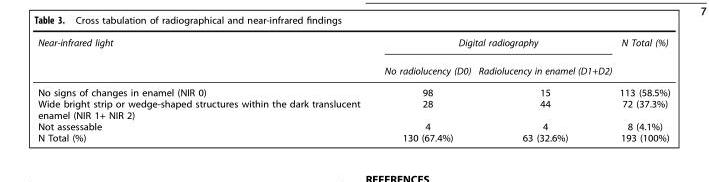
<table><thead><tr><td rowspan="2">Near-infrared light</td><td colspan="2">Digital radiography</td><td rowspan="2">N Total (%)</td></tr><tr><td>No radiolucency (D0)</td><td>Radiolucency in enamel (D1+D2)</td></tr></thead><tbody><tr><td>No signs of changes in enamel (NIR 0)</td><td>98</td><td>15</td><td>113 (58.5%)</td></tr><tr><td>Wide bright strip or wedge-shaped structures within the dark translucent enamel (NIR 1+ NIR 2)</td><td>28</td><td>44</td><td>72 (37.3%)</td></tr><tr><td>Not assessable</td><td>4</td><td>4</td><td>8 (4.1%)</td></tr><tr><td>N Total (%)</td><td>130 (67.4%)</td><td>63 (32.6%)</td><td>193 (100%)</td></tr></tbody></table>